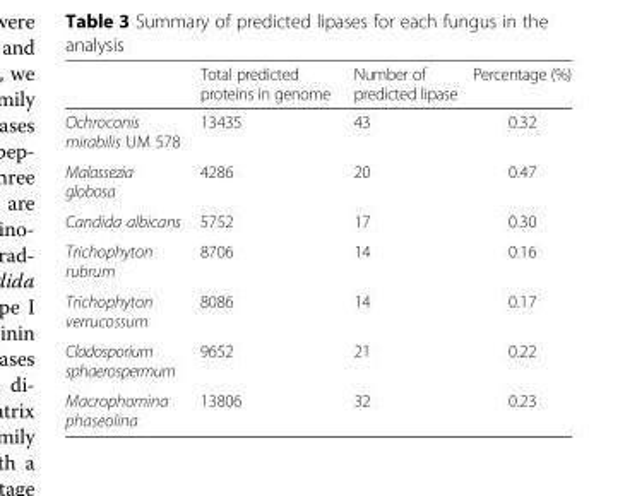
<table><thead><tr><td></td><td>Total predicted proteins in genome</td><td>Number of predicted lipase</td><td>Percentage (%)</td></tr></thead><tbody><tr><td>Ochroconis mirabilis UM 578</td><td>13435</td><td>43</td><td>0.32</td></tr><tr><td>Malassezia globosa</td><td>4286</td><td>20</td><td>0.47</td></tr><tr><td>Candida albicans</td><td>5752</td><td>17</td><td>0.30</td></tr><tr><td>Trichophyton rubrum</td><td>8706</td><td>14</td><td>0.16</td></tr><tr><td>Trichophyton verrucossum</td><td>8086</td><td>14</td><td>0.17</td></tr><tr><td>Cladosporium sphaerospermum</td><td>9652</td><td>21</td><td>0.22</td></tr><tr><td>Macrophomina phaseolina</td><td>13806</td><td>32</td><td>0.23</td></tr></tbody></table>